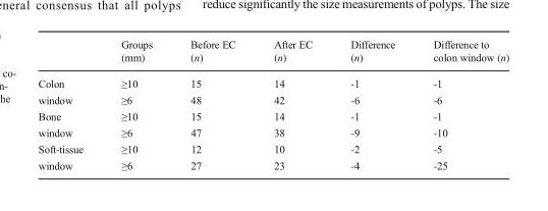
<table><thead><tr><td rowspan="2"></td><td rowspan="2">Groups (mm)</td><td rowspan="2">Before EC (n)</td><td rowspan="2">After EC (n)</td><td rowspan="2">Difference (n)</td><td rowspan="2">Difference to colon window (n)</td></tr><tr></tr></thead><tbody><tr><td>Colon</td><td>≥10</td><td>15</td><td>14</td><td>-1</td><td>-1</td></tr><tr><td>window</td><td>≥6</td><td>48</td><td>42</td><td>-6</td><td>-6</td></tr><tr><td>Bone</td><td>≥10</td><td>15</td><td>14</td><td>-1</td><td>-1</td></tr><tr><td>window</td><td>≥6</td><td>47</td><td>38</td><td>-9</td><td>-10</td></tr><tr><td>Soft-tissue</td><td>≥10</td><td>12</td><td>10</td><td>-2</td><td>-5</td></tr><tr><td>window</td><td>≥6</td><td>27</td><td>23</td><td>-4</td><td>-25</td></tr></tbody></table>